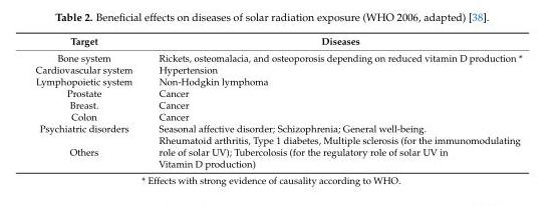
<table><thead><tr><td>Target</td><td>Diseases</td></tr></thead><tbody><tr><td>Bone system</td><td>Rickets, osteomalacia, and osteoporosis depending on reduced vitamin D production *</td></tr><tr><td>Cardiovascular system</td><td>Hypertension</td></tr><tr><td>Lymphopoietic system</td><td>Non-Hodgkin lymphoma</td></tr><tr><td>Prostate</td><td>Cancer</td></tr><tr><td>Breast.</td><td>Cancer</td></tr><tr><td>Colon</td><td>Cancer</td></tr><tr><td>Psychiatric disorders</td><td>Seasonal affective disorder; Schizophrenia; General well-being.</td></tr><tr><td>Others</td><td>Rheumatoid arthritis, Type 1 diabetes, Multiple sclerosis (for the immunomodulating role of solar UV); Tubercolosis (for the regulatory role of solar UV in Vitamin D production)</td></tr></tbody></table>